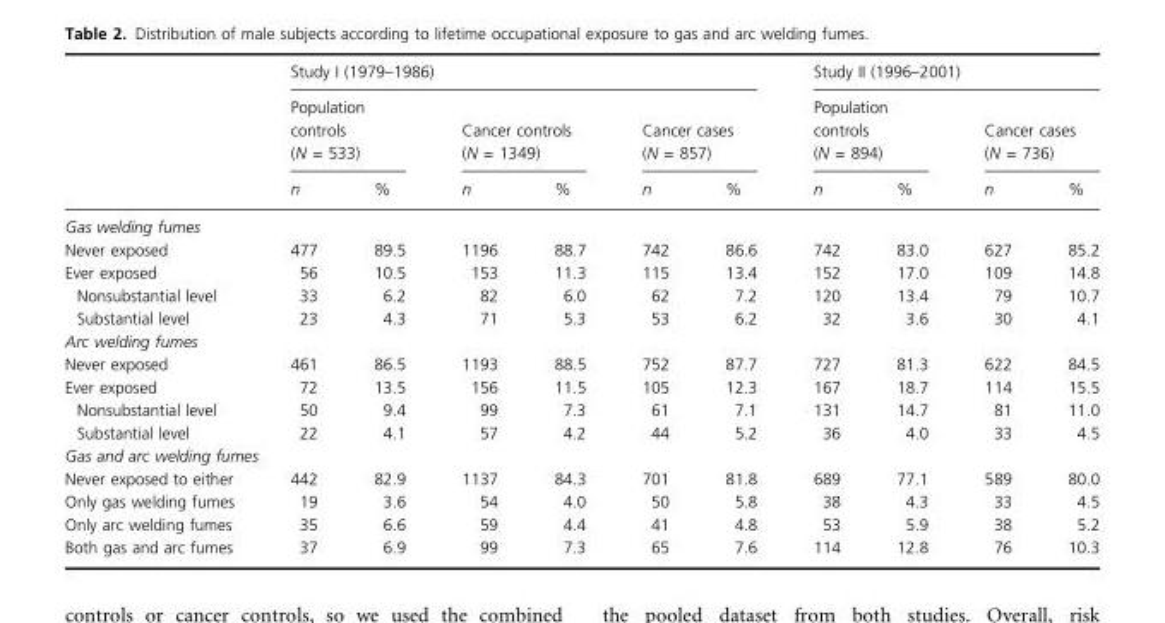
<table><thead><tr><td rowspan="3"></td><td colspan="6">Study I (1979–1986)</td><td colspan="4">Study II (1996–2001)</td></tr><tr><td colspan="2">Population controls (N = 533)</td><td colspan="2">Cancer controls (N = 1349)</td><td colspan="2">Cancer cases (N = 857)</td><td colspan="2">Population controls (N = 894)</td><td colspan="2">Cancer cases (N = 736)</td></tr><tr><td>n</td><td>%</td><td>n</td><td>%</td><td>n</td><td>%</td><td>n</td><td>%</td><td>n</td><td>%</td></tr></thead><tbody><tr><td colspan="11">Gas welding fumes</td></tr><tr><td>Never exposed</td><td>477</td><td>89.5</td><td>1196</td><td>88.7</td><td>742</td><td>86.6</td><td>742</td><td>83.0</td><td>627</td><td>85.2</td></tr><tr><td>Ever exposed</td><td>56</td><td>10.5</td><td>153</td><td>11.3</td><td>115</td><td>13.4</td><td>152</td><td>17.0</td><td>109</td><td>14.8</td></tr><tr><td>Nonsubstantial level</td><td>33</td><td>6.2</td><td>82</td><td>6.0</td><td>62</td><td>7.2</td><td>120</td><td>13.4</td><td>79</td><td>10.7</td></tr><tr><td>Substantial level</td><td>23</td><td>4.3</td><td>71</td><td>5.3</td><td>53</td><td>6.2</td><td>32</td><td>3.6</td><td>30</td><td>4.1</td></tr><tr><td colspan="11">Arc welding fumes</td></tr><tr><td>Never exposed</td><td>461</td><td>86.5</td><td>1193</td><td>88.5</td><td>752</td><td>87.7</td><td>727</td><td>81.3</td><td>622</td><td>84.5</td></tr><tr><td>Ever exposed</td><td>72</td><td>13.5</td><td>156</td><td>11.5</td><td>105</td><td>12.3</td><td>167</td><td>18.7</td><td>114</td><td>15.5</td></tr><tr><td>Nonsubstantial level</td><td>50</td><td>9.4</td><td>99</td><td>7.3</td><td>61</td><td>7.1</td><td>131</td><td>14.7</td><td>81</td><td>11.0</td></tr><tr><td>Substantial level</td><td>22</td><td>4.1</td><td>57</td><td>4.2</td><td>44</td><td>5.2</td><td>36</td><td>4.0</td><td>33</td><td>4.5</td></tr><tr><td colspan="11">Gas and arc welding fumes</td></tr><tr><td>Never exposed to either</td><td>442</td><td>82.9</td><td>1137</td><td>84.3</td><td>701</td><td>81.8</td><td>689</td><td>77.1</td><td>589</td><td>80.0</td></tr><tr><td>Only gas welding fumes</td><td>19</td><td>3.6</td><td>54</td><td>4.0</td><td>50</td><td>5.8</td><td>38</td><td>4.3</td><td>33</td><td>4.5</td></tr><tr><td>Only arc welding fumes</td><td>35</td><td>6.6</td><td>59</td><td>4.4</td><td>41</td><td>4.8</td><td>53</td><td>5.9</td><td>38</td><td>5.2</td></tr><tr><td>Both gas and arc fumes</td><td>37</td><td>6.9</td><td>99</td><td>7.3</td><td>65</td><td>7.6</td><td>114</td><td>12.8</td><td>76</td><td>10.3</td></tr></tbody></table>